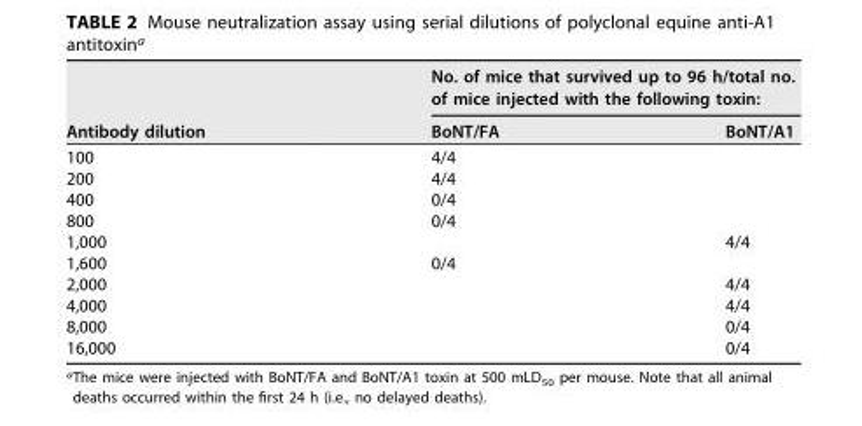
<table><thead><tr><td rowspan="2">Antibody dilution</td><td colspan="2">No. of mice that survived up to 96 h/total no. of mice injected with the following toxin:</td></tr><tr><td>BoNT/FA</td><td>BoNT/A1</td></tr></thead><tbody><tr><td>100</td><td>4/4</td><td></td></tr><tr><td>200</td><td>4/4</td><td></td></tr><tr><td>400</td><td>0/4</td><td></td></tr><tr><td>800</td><td>0/4</td><td></td></tr><tr><td>1,000</td><td></td><td>4/4</td></tr><tr><td>1,600</td><td>0/4</td><td></td></tr><tr><td>2,000</td><td></td><td>4/4</td></tr><tr><td>4,000</td><td></td><td>4/4</td></tr><tr><td>8,000</td><td></td><td>0/4</td></tr><tr><td>16,000</td><td></td><td>0/4</td></tr></tbody></table>